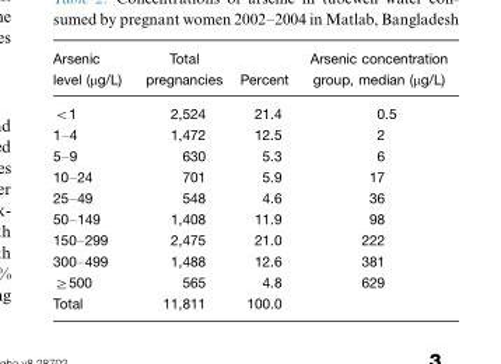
<table><thead><tr><td>Arsenic level (µg/L)</td><td>Total pregnancies</td><td>Percent</td><td>Arsenic concentration group, median (µg/L)</td></tr></thead><tbody><tr><td>&lt;1</td><td>2,524</td><td>21.4</td><td>0.5</td></tr><tr><td>1–4</td><td>1,472</td><td>12.5</td><td>2</td></tr><tr><td>5–9</td><td>630</td><td>5.3</td><td>6</td></tr><tr><td>10–24</td><td>701</td><td>5.9</td><td>17</td></tr><tr><td>25–49</td><td>548</td><td>4.6</td><td>36</td></tr><tr><td>50–149</td><td>1,408</td><td>11.9</td><td>98</td></tr><tr><td>150–299</td><td>2,475</td><td>21.0</td><td>222</td></tr><tr><td>300–499</td><td>1,488</td><td>12.6</td><td>381</td></tr><tr><td>≥500</td><td>565</td><td>4.8</td><td>629</td></tr><tr><td>Total</td><td>11,811</td><td>100.0</td><td></td></tr></tbody></table>